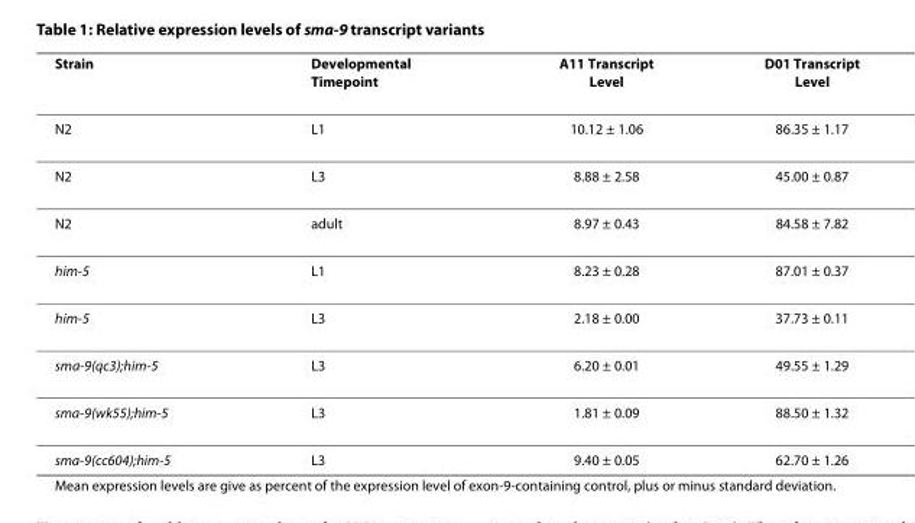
<table><thead><tr><td>Strain</td><td>Developmental Timepoint</td><td>A11 Transcript Level</td><td>D01 Transcript Level</td></tr></thead><tbody><tr><td>N2</td><td>L1</td><td>10.12 ± 1.06</td><td>86.35 ± 1.17</td></tr><tr><td>N2</td><td>L3</td><td>8.88 ± 2.58</td><td>45.00 ± 0.87</td></tr><tr><td>N2</td><td>adult</td><td>8.97 ± 0.43</td><td>84.58 ± 7.82</td></tr><tr><td>him-5</td><td>L1</td><td>8.23 ± 0.28</td><td>87.01 ± 0.37</td></tr><tr><td>him-5</td><td>L3</td><td>2.18 ± 0.00</td><td>37.73 ± 0.11</td></tr><tr><td>sma-9(qc3);him-5</td><td>L3</td><td>6.20 ± 0.01</td><td>49.55 ± 1.29</td></tr><tr><td>sma-9(wk55);him-5</td><td>L3</td><td>1.81 ± 0.09</td><td>88.50 ± 1.32</td></tr><tr><td>sma-9(cc604);him-5</td><td>L3</td><td>9.40 ± 0.05</td><td>62.70 ± 1.26</td></tr></tbody></table>